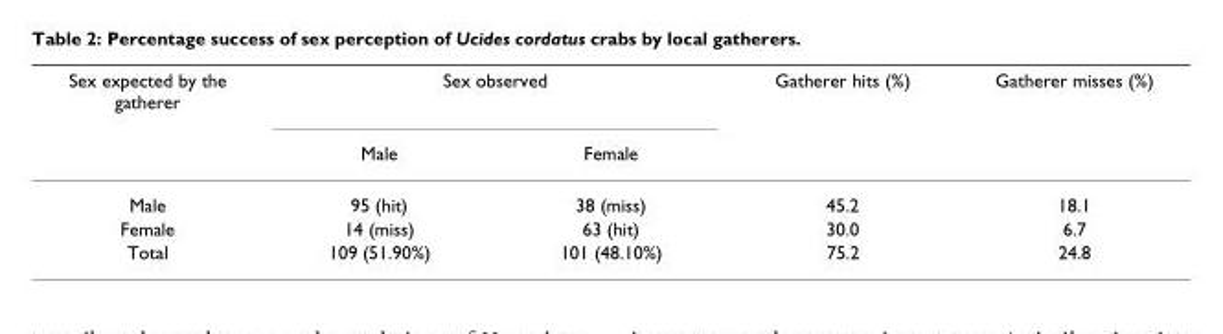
<table><thead><tr><td rowspan="2">Sex expected by the gatherer</td><td colspan="2">Sex observed</td><td rowspan="2">Gatherer hits (%)</td><td rowspan="2">Gatherer misses (%)</td></tr><tr><td>Male</td><td>Female</td></tr></thead><tbody><tr><td>Male</td><td>95 (hit)</td><td>38 (miss)</td><td>45.2</td><td>18.1</td></tr><tr><td>Female</td><td>14 (miss)</td><td>63 (hit)</td><td>30.0</td><td>6.7</td></tr><tr><td>Total</td><td>109 (51.90%)</td><td>101 (48.10%)</td><td>75.2</td><td>24.8</td></tr></tbody></table>